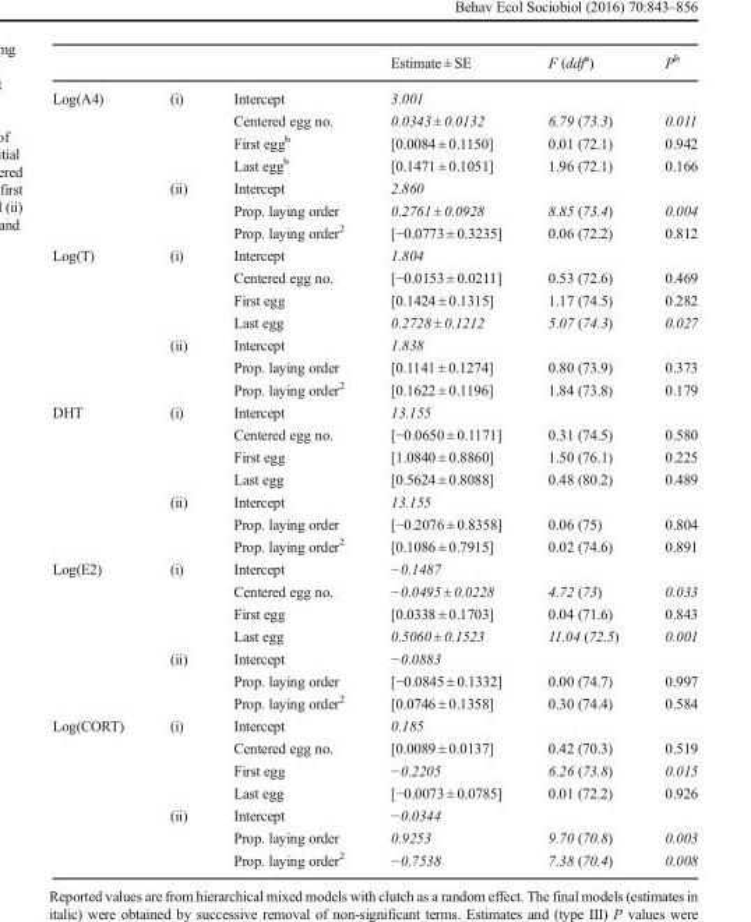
<table><thead><tr><td></td><td></td><td></td><td>Estimate ± SE</td><td>F (ddf<sup>a</sup>)</td><td>P<sup>b</sup></td></tr></thead><tbody><tr><td rowspan="7">Log(A4)</td><td rowspan="4">(i)</td><td>Intercept</td><td>3.001</td><td></td><td></td></tr><tr><td>Centered egg no.</td><td>0.0343 ± 0.0132</td><td>6.79 (73.3)</td><td>0.011</td></tr><tr><td>First egg<sup>b</sup></td><td>[0.0084 ± 0.1150]</td><td>0.01 (72.1)</td><td>0.942</td></tr><tr><td>Last egg<sup>b</sup></td><td>[0.1471 ± 0.1051]</td><td>1.96 (72.1)</td><td>0.166</td></tr><tr><td rowspan="3">(ii)</td><td>Intercept</td><td>2.860</td><td></td><td></td></tr><tr><td>Prop. laying order</td><td>0.2761 ± 0.0928</td><td>8.85 (73.4)</td><td>0.004</td></tr><tr><td>Prop. laying order<sup>2</sup></td><td>[−0.0773 ± 0.3235]</td><td>0.06 (72.2)</td><td>0.812</td></tr><tr><td rowspan="7">Log(T)</td><td rowspan="4">(i)</td><td>Intercept</td><td>1.804</td><td></td><td></td></tr><tr><td>Centered egg no.</td><td>[−0.0153 ± 0.0211]</td><td>0.53 (72.6)</td><td>0.469</td></tr><tr><td>First egg</td><td>[0.1424 ± 0.1315]</td><td>1.17 (74.5)</td><td>0.282</td></tr><tr><td>Last egg</td><td>0.2728 ± 0.1212</td><td>5.07 (74.3)</td><td>0.027</td></tr><tr><td rowspan="3">(ii)</td><td>Intercept</td><td>1.838</td><td></td><td></td></tr><tr><td>Prop. laying order</td><td>[0.1141 ± 0.1274]</td><td>0.80 (73.9)</td><td>0.373</td></tr><tr><td>Prop. laying order<sup>2</sup></td><td>[0.1622 ± 0.1196]</td><td>1.84 (73.8)</td><td>0.179</td></tr><tr><td rowspan="7">DHT</td><td rowspan="4">(i)</td><td>Intercept</td><td>13.155</td><td></td><td></td></tr><tr><td>Centered egg no.</td><td>[−0.0650 ± 0.1171]</td><td>0.31 (74.5)</td><td>0.580</td></tr><tr><td>First egg</td><td>[1.0840 ± 0.8860]</td><td>1.50 (76.1)</td><td>0.225</td></tr><tr><td>Last egg</td><td>[0.5624 ± 0.8088]</td><td>0.48 (80.2)</td><td>0.489</td></tr><tr><td rowspan="3">(ii)</td><td>Intercept</td><td>13.155</td><td></td><td></td></tr><tr><td>Prop. laying order</td><td>[−0.2076 ± 0.8358]</td><td>0.06 (75)</td><td>0.804</td></tr><tr><td>Prop. laying order<sup>2</sup></td><td>[0.1086 ± 0.7915]</td><td>0.02 (74.6)</td><td>0.891</td></tr><tr><td rowspan="7">Log(E2)</td><td rowspan="4">(i)</td><td>Intercept</td><td>−0.1487</td><td></td><td></td></tr><tr><td>Centered egg no.</td><td>−0.0495 ± 0.0228</td><td>4.72 (73)</td><td>0.033</td></tr><tr><td>First egg</td><td>[0.0338 ± 0.1703]</td><td>0.04 (71.6)</td><td>0.843</td></tr><tr><td>Last egg</td><td>0.5060 ± 0.1523</td><td>11.04 (72.5)</td><td>0.001</td></tr><tr><td rowspan="3">(ii)</td><td>Intercept</td><td>−0.0883</td><td></td><td></td></tr><tr><td>Prop. laying order</td><td>[−0.0845 ± 0.1332]</td><td>0.00 (74.7)</td><td>0.997</td></tr><tr><td>Prop. laying order<sup>2</sup></td><td>[0.0746 ± 0.1358]</td><td>0.30 (74.4)</td><td>0.584</td></tr><tr><td rowspan="7">Log(CORT)</td><td rowspan="4">(i)</td><td>Intercept</td><td>0.185</td><td></td><td></td></tr><tr><td>Centered egg no.</td><td>[0.0089 ± 0.0137]</td><td>0.42 (70.3)</td><td>0.519</td></tr><tr><td>First egg</td><td>−0.2205</td><td>6.26 (73.8)</td><td>0.015</td></tr><tr><td>Last egg</td><td>[−0.0073 ± 0.0785]</td><td>0.01 (72.2)</td><td>0.926</td></tr><tr><td rowspan="3">(ii)</td><td>Intercept</td><td>−0.0344</td><td></td><td></td></tr><tr><td>Prop. laying order</td><td>0.9253</td><td>9.70 (70.8)</td><td>0.003</td></tr><tr><td>Prop. laying order<sup>2</sup></td><td>−0.7538</td><td>7.38 (70.4)</td><td>0.008</td></tr></tbody></table>